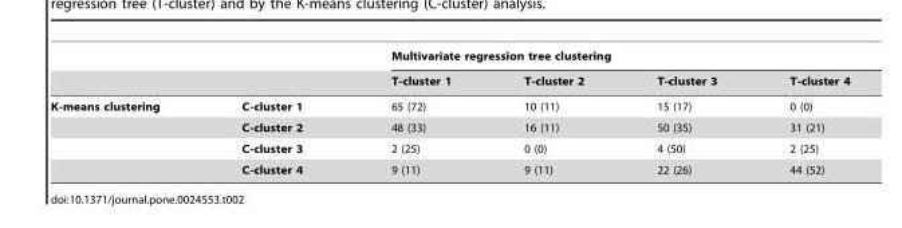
<table><thead><tr><td rowspan="2"></td><td rowspan="2"></td><td colspan="4">Multivariate regression tree clustering</td></tr><tr><td>T-cluster 1</td><td>T-cluster 2</td><td>T-cluster 3</td><td>T-cluster 4</td></tr></thead><tbody><tr><td rowspan="4">K-means clustering</td><td>C-cluster 1</td><td>65 (72)</td><td>10 (11)</td><td>15 (17)</td><td>0 (0)</td></tr><tr><td>C-cluster 2</td><td>48 (33)</td><td>16 (11)</td><td>50 (35)</td><td>31 (21)</td></tr><tr><td>C-cluster 3</td><td>2 (25)</td><td>0 (0)</td><td>4 (50)</td><td>2 (25)</td></tr><tr><td>C-cluster 4</td><td>9 (11)</td><td>9 (11)</td><td>22 (26)</td><td>44 (52)</td></tr></tbody></table>